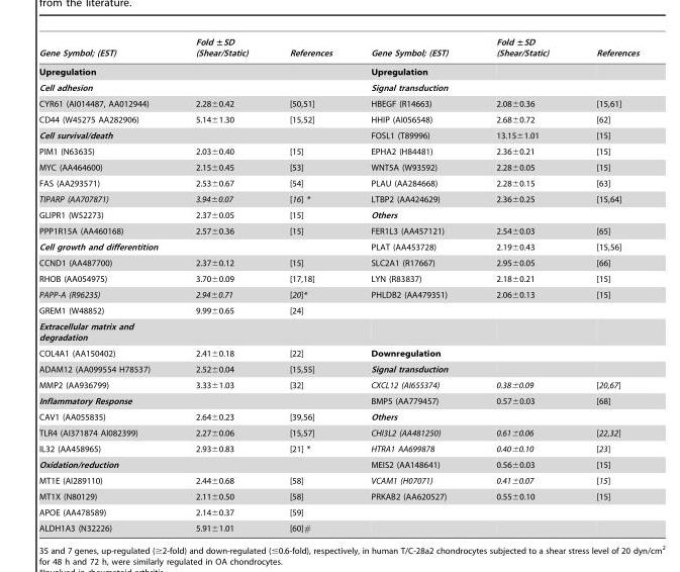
<table><thead><tr><td>Gene Symbol; (EST)</td><td>Fold ±SD (Shear/Static)</td><td>References</td><td>Gene Symbol; (EST)</td><td>Fold ±SD (Shear/Static)</td><td>References</td></tr></thead><tbody><tr><td>Upregulation</td><td></td><td></td><td>Upregulation</td><td></td><td></td></tr><tr><td>Cell adhesion</td><td></td><td></td><td>Signal transduction</td><td></td><td></td></tr><tr><td>CYR61 (AI014487, AA012944)</td><td>2.28±0.42</td><td>[50,51]</td><td>HBEGF (R14663)</td><td>2.08±0.36</td><td>[15,61]</td></tr><tr><td>CD44 (W45275 AA282906)</td><td>5.14±1.30</td><td>[15,52]</td><td>HHIP (AI056548)</td><td>2.68±0.72</td><td>[62]</td></tr><tr><td>Cell survival/death</td><td></td><td></td><td>FOSL1 (T89996)</td><td>13.15±1.01</td><td>[15]</td></tr><tr><td>PIM1 (N63635)</td><td>2.03±0.40</td><td>[15]</td><td>EPHA2 (H84481)</td><td>2.36±0.21</td><td>[15]</td></tr><tr><td>MYC (AA464600)</td><td>2.15±0.45</td><td>[53]</td><td>WNT5A (W93592)</td><td>2.28±0.05</td><td>[15]</td></tr><tr><td>FAS (AA293571)</td><td>2.53±0.67</td><td>[54]</td><td>PLAU (AA284668)</td><td>2.28±0.15</td><td>[63]</td></tr><tr><td>TIPARP (AA707871)</td><td>3.94±0.07</td><td>[16] *</td><td>LTBP2 (AA424629)</td><td>2.36±0.25</td><td>[15,64]</td></tr><tr><td>GLIPR1 (W52273)</td><td>2.37±0.05</td><td>[15]</td><td>Others</td><td></td><td></td></tr><tr><td>PPP1R15A (AA460168)</td><td>2.57±0.36</td><td>[15]</td><td>FER1L3 (AA457121)</td><td>2.54±0.03</td><td>[65]</td></tr><tr><td>Cell growth and differentition</td><td></td><td></td><td>PLAT (AA453728)</td><td>2.19±0.43</td><td>[15,56]</td></tr><tr><td>CCND1 (AA487700)</td><td>2.37±0.12</td><td>[15]</td><td>SLC2A1 (R17667)</td><td>2.95±0.05</td><td>[66]</td></tr><tr><td>RHOB (AA054975)</td><td>3.70±0.09</td><td>[17,18]</td><td>LYN (R83837)</td><td>2.18±0.21</td><td>[15]</td></tr><tr><td>PAPP-A (R96235)</td><td>2.94±0.71</td><td>[20]*</td><td>PHLDB2 (AA479351)</td><td>2.06±0.13</td><td>[15]</td></tr><tr><td>GREM1 (W48852)</td><td>9.99±0.65</td><td>[24]</td><td></td><td></td><td></td></tr><tr><td colspan="6">Extracellular matrix and degradation</td></tr><tr><td>COL4A1 (AA150402)</td><td>2.41±0.18</td><td>[22]</td><td>Downregulation</td><td></td><td></td></tr><tr><td>ADAM12 (AA099554 H78537)</td><td>2.52±0.04</td><td>[15,55]</td><td>Signal transduction</td><td></td><td></td></tr><tr><td>MMP2 (AA936799)</td><td>3.33±1.03</td><td>[32]</td><td>CXCL12 (AI655374)</td><td>0.38±0.09</td><td>[20,67]</td></tr><tr><td>Inflammatory Response</td><td></td><td></td><td>BMP5 (AA779457)</td><td>0.57±0.03</td><td>[68]</td></tr><tr><td>CAV1 (AA055835)</td><td>2.64±0.23</td><td>[39,56]</td><td>Others</td><td></td><td></td></tr><tr><td>TLR4 (AI371874 AI082399)</td><td>2.27±0.06</td><td>[15,57]</td><td>CHI3L2 (AA481250)</td><td>0.61±0.06</td><td>[22,32]</td></tr><tr><td>IL32 (AA458965)</td><td>2.93±0.83</td><td>[21] *</td><td>HTRA1 AA699878</td><td>0.40±0.10</td><td>[23]</td></tr><tr><td>Oxidation/reduction</td><td></td><td></td><td>MEIS2 (AA148641)</td><td>0.56±0.03</td><td>[15]</td></tr><tr><td>MT1E (AI289110)</td><td>2.44±0.68</td><td>[58]</td><td>VCAM1 (H07071)</td><td>0.41±0.07</td><td>[15]</td></tr><tr><td>MT1X (N80129)</td><td>2.11±0.50</td><td>[58]</td><td>PRKAB2 (AA620527)</td><td>0.55±0.10</td><td>[15]</td></tr><tr><td>APOE (AA478589)</td><td>2.14±0.37</td><td>[59]</td><td></td><td></td><td></td></tr><tr><td>ALDH1A3 (N32226)</td><td>5.91±1.01</td><td>[60]#</td><td></td><td></td><td></td></tr></tbody></table>